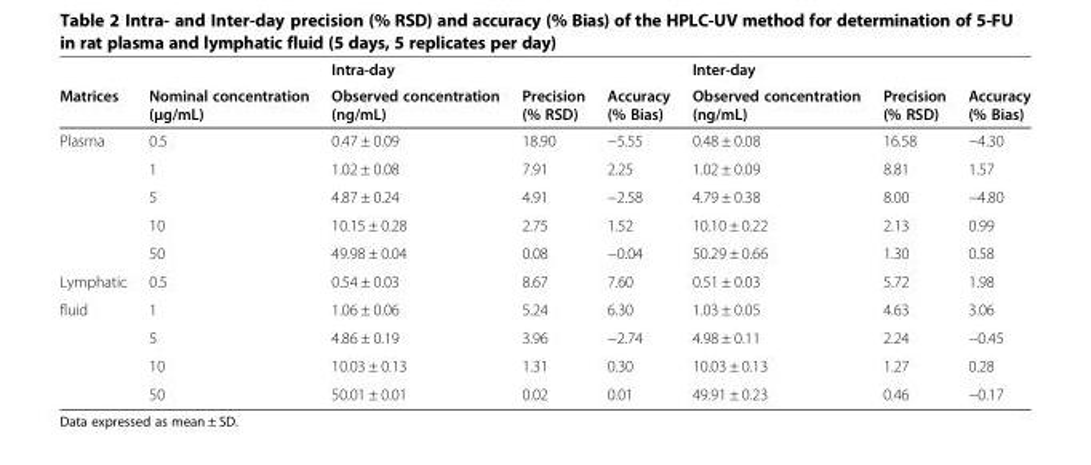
<table><thead><tr><td rowspan="2">Matrices</td><td rowspan="2">Nominal concentration (μg/mL)</td><td rowspan="2">Intra-day Observed concentration (ng/mL)</td><td rowspan="2">Precision (% RSD)</td><td rowspan="2">Accuracy (% Bias)</td><td rowspan="2">Inter-day Observed concentration (ng/mL)</td><td rowspan="2">Precision (% RSD)</td><td rowspan="2">Accuracy (% Bias)</td></tr><tr></tr></thead><tbody><tr><td rowspan="5">Plasma</td><td>0.5</td><td>0.47 ± 0.09</td><td>18.90</td><td>−5.55</td><td>0.48 ± 0.08</td><td>16.58</td><td>−4.30</td></tr><tr><td>1</td><td>1.02 ± 0.08</td><td>7.91</td><td>2.25</td><td>1.02 ± 0.09</td><td>8.81</td><td>1.57</td></tr><tr><td>5</td><td>4.87 ± 0.24</td><td>4.91</td><td>−2.58</td><td>4.79 ± 0.38</td><td>8.00</td><td>−4.80</td></tr><tr><td>10</td><td>10.15 ± 0.28</td><td>2.75</td><td>1.52</td><td>10.10 ± 0.22</td><td>2.13</td><td>0.99</td></tr><tr><td>50</td><td>49.98 ± 0.04</td><td>0.08</td><td>−0.04</td><td>50.29 ± 0.66</td><td>1.30</td><td>0.58</td></tr><tr><td>Lymphatic</td><td>0.5</td><td>0.54 ± 0.03</td><td>8.67</td><td>7.60</td><td>0.51 ± 0.03</td><td>5.72</td><td>1.98</td></tr><tr><td rowspan="4">fluid</td><td>1</td><td>1.06 ± 0.06</td><td>5.24</td><td>6.30</td><td>1.03 ± 0.05</td><td>4.63</td><td>3.06</td></tr><tr><td>5</td><td>4.86 ± 0.19</td><td>3.96</td><td>−2.74</td><td>4.98 ± 0.11</td><td>2.24</td><td>−0.45</td></tr><tr><td>10</td><td>10.03 ± 0.13</td><td>1.31</td><td>0.30</td><td>10.03 ± 0.13</td><td>1.27</td><td>0.28</td></tr><tr><td>50</td><td>50.01 ± 0.01</td><td>0.02</td><td>0.01</td><td>49.91 ± 0.23</td><td>0.46</td><td>−0.17</td></tr></tbody></table>